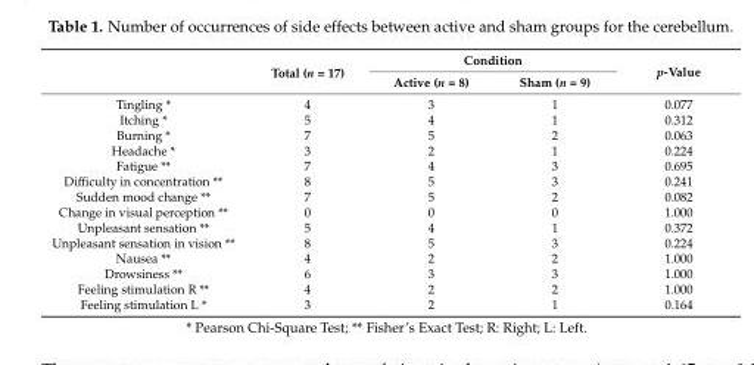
<table><thead><tr><td rowspan="2"></td><td rowspan="2">Total (n = 17)</td><td colspan="2">Condition</td><td rowspan="2">p-Value</td></tr><tr><td>Active (n = 8)</td><td>Sham (n = 9)</td></tr></thead><tbody><tr><td>Tingling *</td><td>4</td><td>3</td><td>1</td><td>0.077</td></tr><tr><td>Itching *</td><td>5</td><td>4</td><td>1</td><td>0.312</td></tr><tr><td>Burning *</td><td>7</td><td>5</td><td>2</td><td>0.063</td></tr><tr><td>Headache *</td><td>3</td><td>2</td><td>1</td><td>0.224</td></tr><tr><td>Fatigue **</td><td>7</td><td>4</td><td>3</td><td>0.695</td></tr><tr><td>Difficulty in concentration **</td><td>8</td><td>5</td><td>3</td><td>0.241</td></tr><tr><td>Sudden mood change **</td><td>7</td><td>5</td><td>2</td><td>0.082</td></tr><tr><td>Change in visual perception **</td><td>0</td><td>0</td><td>0</td><td>1.000</td></tr><tr><td>Unpleasant sensation **</td><td>5</td><td>4</td><td>1</td><td>0.372</td></tr><tr><td>Unpleasant sensation in vision **</td><td>8</td><td>5</td><td>3</td><td>0.224</td></tr><tr><td>Nausea **</td><td>4</td><td>2</td><td>2</td><td>1.000</td></tr><tr><td>Drowsiness **</td><td>6</td><td>3</td><td>3</td><td>1.000</td></tr><tr><td>Feeling stimulation R **</td><td>4</td><td>2</td><td>2</td><td>1.000</td></tr><tr><td>Feeling stimulation L *</td><td>3</td><td>2</td><td>1</td><td>0.164</td></tr></tbody></table>